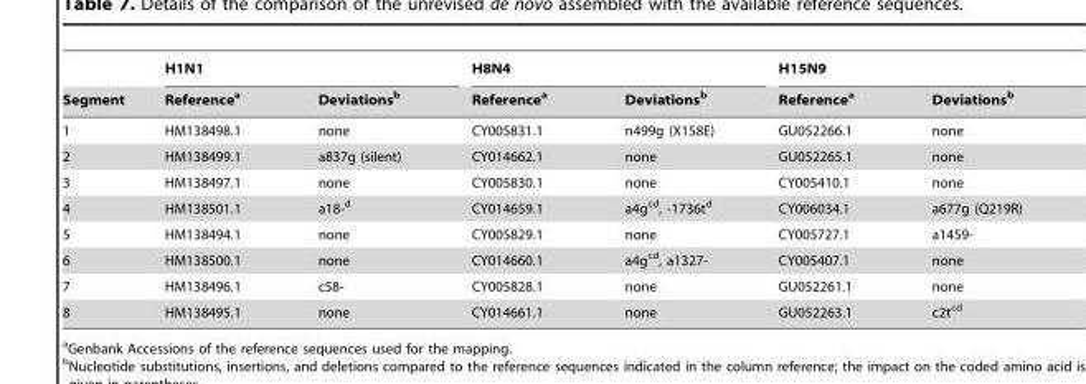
<table><thead><tr><td rowspan="2">Segment</td><td colspan="2">H1N1</td><td colspan="2">H8N4</td><td colspan="2">H15N9</td></tr><tr><td>Reference<sup>a</sup></td><td>Deviations<sup>b</sup></td><td>Reference<sup>a</sup></td><td>Deviations<sup>b</sup></td><td>Reference<sup>a</sup></td><td>Deviations<sup>b</sup></td></tr></thead><tbody><tr><td>1</td><td>HM138498.1</td><td>none</td><td>CY005831.1</td><td>n499g (X158E)</td><td>GU052266.1</td><td>none</td></tr><tr><td>2</td><td>HM138499.1</td><td>a837g (silent)</td><td>CY014662.1</td><td>none</td><td>GU052265.1</td><td>none</td></tr><tr><td>3</td><td>HM138497.1</td><td>none</td><td>CY005830.1</td><td>none</td><td>CY005410.1</td><td>none</td></tr><tr><td>4</td><td>HM138501.1</td><td>a18-d</td><td>CY014659.1</td><td>a4g<sup>cd</sup>, -1736t<sup>d</sup></td><td>CY006034.1</td><td>a677g (Q219R)</td></tr><tr><td>5</td><td>HM138494.1</td><td>none</td><td>CY005829.1</td><td>none</td><td>CY005727.1</td><td>a1459-</td></tr><tr><td>6</td><td>HM138500.1</td><td>none</td><td>CY014660.1</td><td>a4g<sup>cd</sup>, a1327-</td><td>CY005407.1</td><td>none</td></tr><tr><td>7</td><td>HM138496.1</td><td>c58-</td><td>CY005828.1</td><td>none</td><td>GU052261.1</td><td>none</td></tr><tr><td>8</td><td>HM138495.1</td><td>none</td><td>CY014661.1</td><td>none</td><td>GU052263.1</td><td>c2t<sup>cd</sup></td></tr></tbody></table>